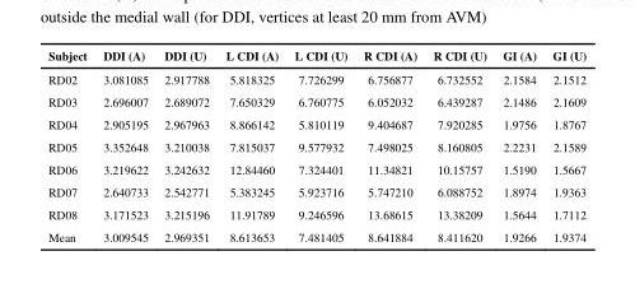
<table><thead><tr><td>Subject</td><td>DDI (A)</td><td>DDI (U)</td><td>L CDI (A)</td><td>L CDI (U)</td><td>R CDI (A)</td><td>R CDI (U)</td><td>GI (A)</td><td>GI (U)</td></tr></thead><tbody><tr><td>RD02</td><td>3.081085</td><td>2.917788</td><td>5.818325</td><td>7.726299</td><td>6.756877</td><td>6.732552</td><td>2.1584</td><td>2.1512</td></tr><tr><td>RD03</td><td>2.696007</td><td>2.689072</td><td>7.650329</td><td>6.760775</td><td>6.052032</td><td>6.439287</td><td>2.1486</td><td>2.1609</td></tr><tr><td>RD04</td><td>2.905195</td><td>2.967963</td><td>8.866142</td><td>5.810119</td><td>9.404687</td><td>7.920285</td><td>1.9756</td><td>1.8767</td></tr><tr><td>RD05</td><td>3.352648</td><td>3.210038</td><td>7.815037</td><td>9.577932</td><td>7.498025</td><td>8.160805</td><td>2.2231</td><td>2.1589</td></tr><tr><td>RD06</td><td>3.219622</td><td>3.242632</td><td>12.84460</td><td>7.324401</td><td>11.34821</td><td>10.15757</td><td>1.5190</td><td>1.5667</td></tr><tr><td>RD07</td><td>2.640733</td><td>2.542771</td><td>5.383245</td><td>5.923716</td><td>5.747210</td><td>6.088752</td><td>1.8974</td><td>1.9363</td></tr><tr><td>RD08</td><td>3.171523</td><td>3.215196</td><td>11.91789</td><td>9.246596</td><td>13.68615</td><td>13.38209</td><td>1.5644</td><td>1.7112</td></tr><tr><td>Mean</td><td>3.009545</td><td>2.969351</td><td>8.613653</td><td>7.481405</td><td>8.641884</td><td>8.411620</td><td>1.9266</td><td>1.9374</td></tr></tbody></table>